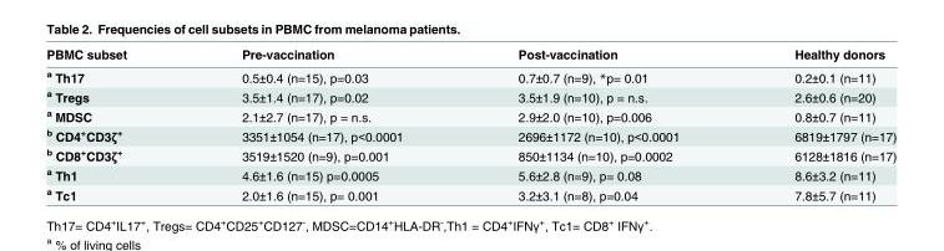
<table><thead><tr><td>PBMC subset</td><td>Pre-vaccination</td><td>Post-vaccination</td><td>Healthy donors</td></tr></thead><tbody><tr><td><sup>a</sup> Th17</td><td>0.5±0.4 (n=15), p=0.03</td><td>0.7±0.7 (n=9), *p= 0.01</td><td>0.2±0.1 (n=11)</td></tr><tr><td><sup>a</sup> Tregs</td><td>3.5±1.4 (n=17), p=0.02</td><td>3.5±1.9 (n=10), p = n.s.</td><td>2.6±0.6 (n=20)</td></tr><tr><td><sup>a</sup> MDSC</td><td>2.1±2.7 (n=17), p = n.s.</td><td>2.9±2.0 (n=10), p=0.006</td><td>0.8±0.7 (n=11)</td></tr><tr><td><sup>b</sup> CD4<sup>+</sup>CD3ζ<sup>+</sup></td><td>3351±1054 (n=17), p&lt;0.0001</td><td>2696±1172 (n=10), p&lt;0.0001</td><td>6819±1797 (n=17)</td></tr><tr><td><sup>b</sup> CD8<sup>+</sup>CD3ζ<sup>+</sup></td><td>3519±1520 (n=9), p=0.001</td><td>850±1134 (n=10), p=0.0002</td><td>6128±1816 (n=17)</td></tr><tr><td><sup>a</sup> Th1</td><td>4.6±1.6 (n=15) p=0.0005</td><td>5.6±2.8 (n=9), p= 0.08</td><td>8.6±3.2 (n=11)</td></tr><tr><td><sup>a</sup> Tc1</td><td>2.0±1.6 (n=15), p= 0.001</td><td>3.2±3.1 (n=8), p=0.04</td><td>7.8±5.7 (n=11)</td></tr></tbody></table>